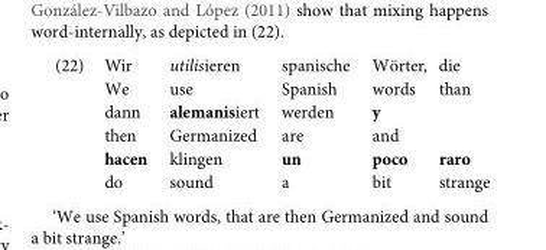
<table><tbody><tr><td rowspan="6">(22)</td><td>Wir</td><td>utilisieren</td><td>spanische</td><td>Wörter,</td><td>die</td></tr><tr><td>We</td><td>use</td><td>Spanish</td><td>words</td><td>than</td></tr><tr><td>dann</td><td>alemanisiert</td><td>werden</td><td>y</td><td></td></tr><tr><td>then</td><td>Germanized</td><td>are</td><td>and</td><td></td></tr><tr><td>hacen</td><td>klingen</td><td>un</td><td>poco</td><td>raro</td></tr><tr><td>do</td><td>sound</td><td>a</td><td>bit</td><td>strange</td></tr></tbody></table>